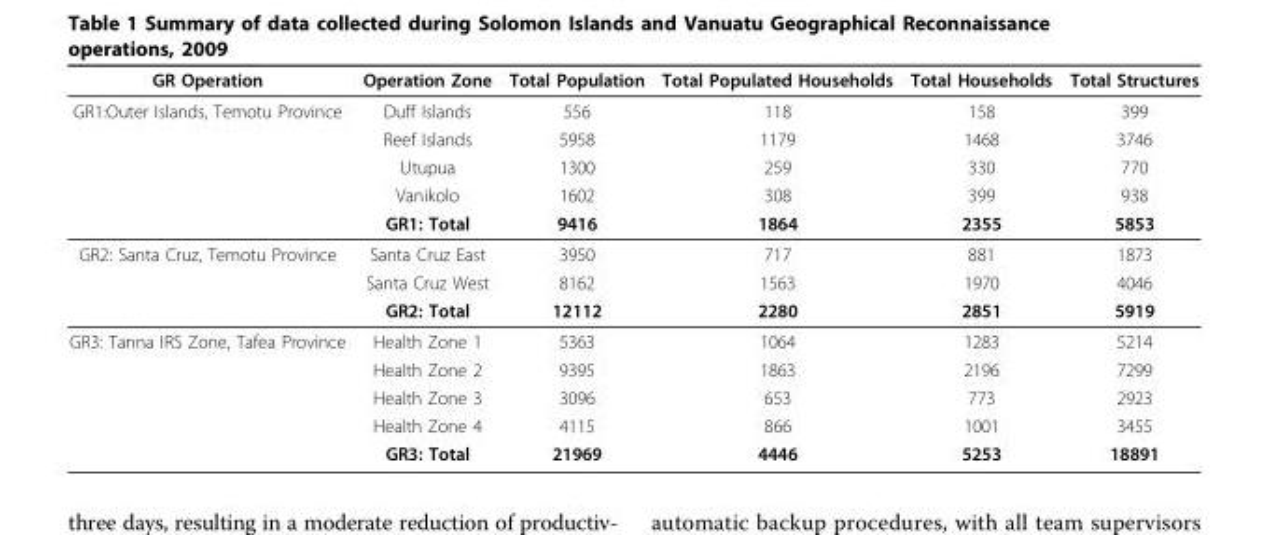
<table><thead><tr><td>GR Operation</td><td>Operation Zone</td><td>Total Population</td><td>Total Populated Households</td><td>Total Households</td><td>Total Structures</td></tr></thead><tbody><tr><td rowspan="5">GR1:Outer Islands, Temotu Province</td><td>Duff Islands</td><td>556</td><td>118</td><td>158</td><td>399</td></tr><tr><td>Reef Islands</td><td>5958</td><td>1179</td><td>1468</td><td>3746</td></tr><tr><td>Utupua</td><td>1300</td><td>259</td><td>330</td><td>770</td></tr><tr><td>Vanikolo</td><td>1602</td><td>308</td><td>399</td><td>938</td></tr><tr><td>GR1: Total</td><td>9416</td><td>1864</td><td>2355</td><td>5853</td></tr><tr><td rowspan="3">GR2: Santa Cruz, Temotu Province</td><td>Santa Cruz East</td><td>3950</td><td>717</td><td>881</td><td>1873</td></tr><tr><td>Santa Cruz West</td><td>8162</td><td>1563</td><td>1970</td><td>4046</td></tr><tr><td>GR2: Total</td><td>12112</td><td>2280</td><td>2851</td><td>5919</td></tr><tr><td rowspan="5">GR3: Tanna IRS Zone, Tafea Province</td><td>Health Zone 1</td><td>5363</td><td>1064</td><td>1283</td><td>5214</td></tr><tr><td>Health Zone 2</td><td>9395</td><td>1863</td><td>2196</td><td>7299</td></tr><tr><td>Health Zone 3</td><td>3096</td><td>653</td><td>773</td><td>2923</td></tr><tr><td>Health Zone 4</td><td>4115</td><td>866</td><td>1001</td><td>3455</td></tr><tr><td>GR3: Total</td><td>21969</td><td>4446</td><td>5253</td><td>18891</td></tr></tbody></table>